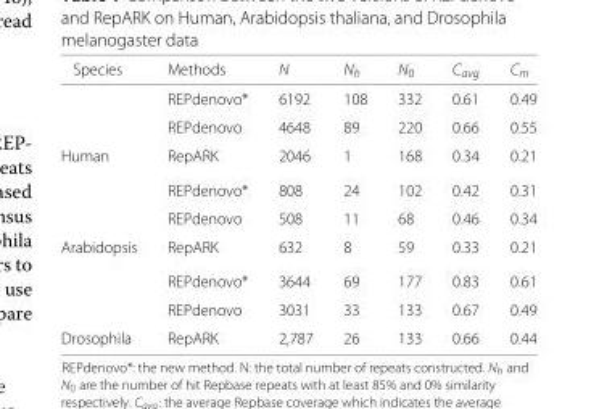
<table><thead><tr><td>Species</td><td>Methods</td><td>N</td><td>N<sub>h</sub></td><td>N<sub>0</sub></td><td>C<sub>avg</sub></td><td>C<sub>m</sub></td></tr></thead><tbody><tr><td></td><td>REPdenovo*</td><td>6192</td><td>108</td><td>332</td><td>0.61</td><td>0.49</td></tr><tr><td></td><td>REPdenovo</td><td>4648</td><td>89</td><td>220</td><td>0.66</td><td>0.55</td></tr><tr><td rowspan="3">Human</td><td>RepARK</td><td>2046</td><td>1</td><td>168</td><td>0.34</td><td>0.21</td></tr><tr><td>REPdenovo*</td><td>808</td><td>24</td><td>102</td><td>0.42</td><td>0.31</td></tr><tr><td>REPdenovo</td><td>508</td><td>11</td><td>68</td><td>0.46</td><td>0.34</td></tr><tr><td rowspan="3">Arabidopsis</td><td>RepARK</td><td>632</td><td>8</td><td>59</td><td>0.33</td><td>0.21</td></tr><tr><td>REPdenovo*</td><td>3644</td><td>69</td><td>177</td><td>0.83</td><td>0.61</td></tr><tr><td>REPdenovo</td><td>3031</td><td>33</td><td>133</td><td>0.67</td><td>0.49</td></tr><tr><td>Drosophila</td><td>RepARK</td><td>2,787</td><td>26</td><td>133</td><td>0.66</td><td>0.44</td></tr></tbody></table>